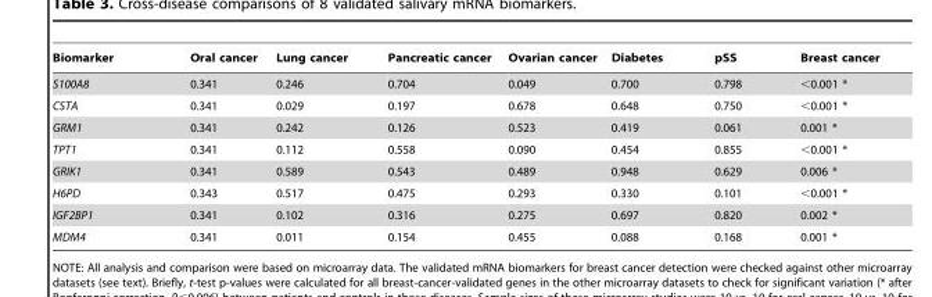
<table><thead><tr><td>Biomarker</td><td>Oral cancer</td><td>Lung cancer</td><td>Pancreatic cancer</td><td>Ovarian cancer</td><td>Diabetes</td><td>pSS</td><td>Breast cancer</td></tr></thead><tbody><tr><td>S100A8</td><td>0.341</td><td>0.246</td><td>0.704</td><td>0.049</td><td>0.700</td><td>0.798</td><td>&lt;0.001 *</td></tr><tr><td>CSTA</td><td>0.341</td><td>0.029</td><td>0.197</td><td>0.678</td><td>0.648</td><td>0.750</td><td>&lt;0.001 *</td></tr><tr><td>GRM1</td><td>0.341</td><td>0.242</td><td>0.126</td><td>0.523</td><td>0.419</td><td>0.061</td><td>0.001 *</td></tr><tr><td>TPT1</td><td>0.341</td><td>0.112</td><td>0.558</td><td>0.090</td><td>0.454</td><td>0.855</td><td>&lt;0.001 *</td></tr><tr><td>GRIK1</td><td>0.341</td><td>0.589</td><td>0.543</td><td>0.489</td><td>0.948</td><td>0.629</td><td>0.006 *</td></tr><tr><td>H6PD</td><td>0.343</td><td>0.517</td><td>0.475</td><td>0.293</td><td>0.330</td><td>0.101</td><td>&lt;0.001 *</td></tr><tr><td>IGF2BP1</td><td>0.341</td><td>0.102</td><td>0.316</td><td>0.275</td><td>0.697</td><td>0.820</td><td>0.002 *</td></tr><tr><td>MDM4</td><td>0.341</td><td>0.011</td><td>0.154</td><td>0.455</td><td>0.088</td><td>0.168</td><td>0.001 *</td></tr></tbody></table>